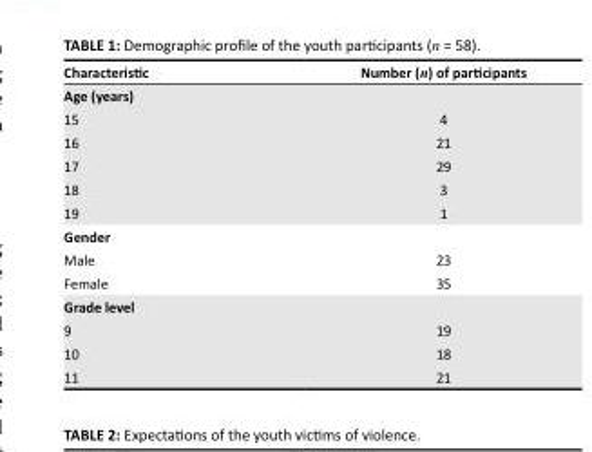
<table><thead><tr><td>Characteristic</td><td>Number (n) of participants</td></tr></thead><tbody><tr><td colspan="2">Age (years)</td></tr><tr><td>15</td><td>4</td></tr><tr><td>16</td><td>21</td></tr><tr><td>17</td><td>29</td></tr><tr><td>18</td><td>3</td></tr><tr><td>19</td><td>1</td></tr><tr><td colspan="2">Gender</td></tr><tr><td>Male</td><td>23</td></tr><tr><td>Female</td><td>35</td></tr><tr><td colspan="2">Grade level</td></tr><tr><td>9</td><td>19</td></tr><tr><td>10</td><td>18</td></tr><tr><td>11</td><td>21</td></tr></tbody></table>